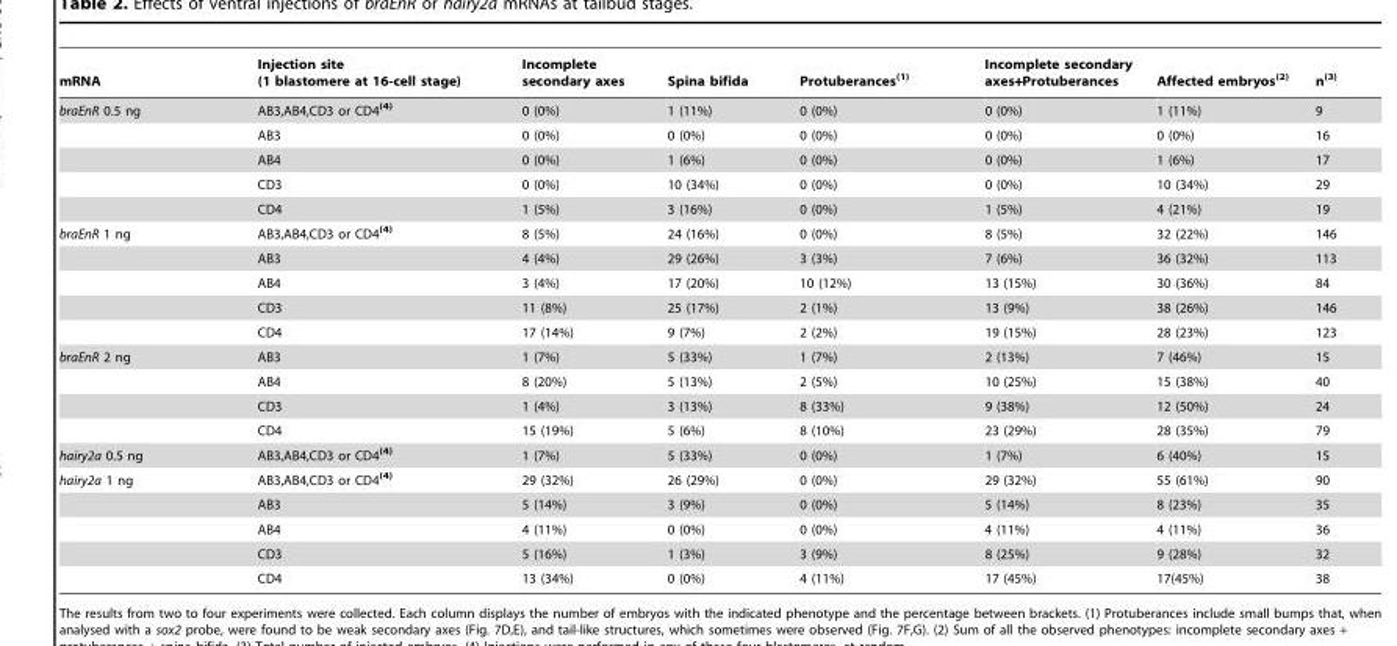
<table><thead><tr><td>mRNA</td><td>Injection site (1 blastomere at 16-cell stage)</td><td>Incomplete secondary axes</td><td>Spina bifida</td><td>Protuberances<sup>(1)</sup></td><td>Incomplete secondary axes+Protuberances</td><td>Affected embryos<sup>(2)</sup></td><td>n<sup>(3)</sup></td></tr></thead><tbody><tr><td rowspan="5">braEnR 0.5 ng</td><td>AB3,AB4,CD3 or CD4<sup>(4)</sup></td><td>0 (0%)</td><td>1 (11%)</td><td>0 (0%)</td><td>0 (0%)</td><td>1 (11%)</td><td>9</td></tr><tr><td>AB3</td><td>0 (0%)</td><td>0 (0%)</td><td>0 (0%)</td><td>0 (0%)</td><td>0 (0%)</td><td>16</td></tr><tr><td>AB4</td><td>0 (0%)</td><td>1 (6%)</td><td>0 (0%)</td><td>0 (0%)</td><td>1 (6%)</td><td>17</td></tr><tr><td>CD3</td><td>0 (0%)</td><td>10 (34%)</td><td>0 (0%)</td><td>0 (0%)</td><td>10 (34%)</td><td>29</td></tr><tr><td>CD4</td><td>1 (5%)</td><td>3 (16%)</td><td>0 (0%)</td><td>1 (5%)</td><td>4 (21%)</td><td>19</td></tr><tr><td rowspan="5">braEnR 1 ng</td><td>AB3,AB4,CD3 or CD4<sup>(4)</sup></td><td>8 (5%)</td><td>24 (16%)</td><td>0 (0%)</td><td>8 (5%)</td><td>32 (22%)</td><td>146</td></tr><tr><td>AB3</td><td>4 (4%)</td><td>29 (26%)</td><td>3 (3%)</td><td>7 (6%)</td><td>36 (32%)</td><td>113</td></tr><tr><td>AB4</td><td>3 (4%)</td><td>17 (20%)</td><td>10 (12%)</td><td>13 (15%)</td><td>30 (36%)</td><td>84</td></tr><tr><td>CD3</td><td>11 (8%)</td><td>25 (17%)</td><td>2 (1%)</td><td>13 (9%)</td><td>38 (26%)</td><td>146</td></tr><tr><td>CD4</td><td>17 (14%)</td><td>9 (7%)</td><td>2 (2%)</td><td>19 (15%)</td><td>28 (23%)</td><td>123</td></tr><tr><td rowspan="4">braEnR 2 ng</td><td>AB3</td><td>1 (7%)</td><td>5 (33%)</td><td>1 (7%)</td><td>2 (13%)</td><td>7 (46%)</td><td>15</td></tr><tr><td>AB4</td><td>8 (20%)</td><td>5 (13%)</td><td>2 (5%)</td><td>10 (25%)</td><td>15 (38%)</td><td>40</td></tr><tr><td>CD3</td><td>1 (4%)</td><td>3 (13%)</td><td>8 (33%)</td><td>9 (38%)</td><td>12 (50%)</td><td>24</td></tr><tr><td>CD4</td><td>15 (19%)</td><td>5 (6%)</td><td>8 (10%)</td><td>23 (29%)</td><td>28 (35%)</td><td>79</td></tr><tr><td>hairy2a 0.5 ng</td><td>AB3,AB4,CD3 or CD4<sup>(4)</sup></td><td>1 (7%)</td><td>5 (33%)</td><td>0 (0%)</td><td>1 (7%)</td><td>6 (40%)</td><td>15</td></tr><tr><td rowspan="5">hairy2a 1 ng</td><td>AB3,AB4,CD3 or CD4<sup>(4)</sup></td><td>29 (32%)</td><td>26 (29%)</td><td>0 (0%)</td><td>29 (32%)</td><td>55 (61%)</td><td>90</td></tr><tr><td>AB3</td><td>5 (14%)</td><td>3 (9%)</td><td>0 (0%)</td><td>5 (14%)</td><td>8 (23%)</td><td>35</td></tr><tr><td>AB4</td><td>4 (11%)</td><td>0 (0%)</td><td>0 (0%)</td><td>4 (11%)</td><td>4 (11%)</td><td>36</td></tr><tr><td>CD3</td><td>5 (16%)</td><td>1 (3%)</td><td>3 (9%)</td><td>8 (25%)</td><td>9 (28%)</td><td>32</td></tr><tr><td>CD4</td><td>13 (34%)</td><td>0 (0%)</td><td>4 (11%)</td><td>17 (45%)</td><td>17(45%)</td><td>38</td></tr></tbody></table>